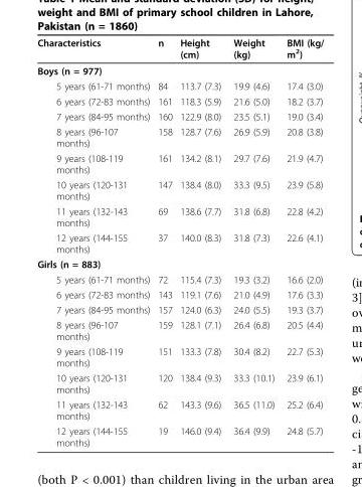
<table><thead><tr><td>Characteristics</td><td>n</td><td>Height (cm)</td><td>Weight (kg)</td><td>BMI (kg/ m<sup>2</sup>)</td></tr></thead><tbody><tr><td colspan="5">Boys (n = 977)</td></tr><tr><td>5 years (61-71 months)</td><td>84</td><td>113.7 (7.3)</td><td>19.9 (4.6)</td><td>17.4 (3.0)</td></tr><tr><td>6 years (72-83 months)</td><td>161</td><td>118.3 (5.9)</td><td>21.6 (5.0)</td><td>18.2 (3.7)</td></tr><tr><td>7 years (84-95 months)</td><td>160</td><td>122.9 (8.0)</td><td>23.5 (5.1)</td><td>19.0 (3.4)</td></tr><tr><td>8 years (96-107 months)</td><td>158</td><td>128.7 (7.6)</td><td>26.9 (5.9)</td><td>20.8 (3.8)</td></tr><tr><td>9 years (108-119 months)</td><td>161</td><td>134.2 (8.1)</td><td>29.7 (7.6)</td><td>21.9 (4.7)</td></tr><tr><td>10 years (120-131 months)</td><td>147</td><td>138.4 (8.0)</td><td>33.3 (9.5)</td><td>23.9 (5.8)</td></tr><tr><td>11 years (132-143 months)</td><td>69</td><td>138.6 (7.7)</td><td>31.8 (6.8)</td><td>22.8 (4.2)</td></tr><tr><td>12 years (144-155 months)</td><td>37</td><td>140.0 (8.3)</td><td>31.8 (7.3)</td><td>22.6 (4.1)</td></tr><tr><td colspan="5">Girls (n = 883)</td></tr><tr><td>5 years (61-71 months)</td><td>72</td><td>115.4 (7.3)</td><td>19.3 (3.2)</td><td>16.6 (2.0)</td></tr><tr><td>6 years (72-83 months)</td><td>143</td><td>119.1 (7.6)</td><td>21.0 (4.9)</td><td>17.6 (3.3)</td></tr><tr><td>7 years (84-95 months)</td><td>157</td><td>124.0 (6.3)</td><td>24.0 (5.5)</td><td>19.3 (3.7)</td></tr><tr><td>8 years (96-107 months)</td><td>159</td><td>128.1 (7.1)</td><td>26.4 (6.8)</td><td>20.5 (4.4)</td></tr><tr><td>9 years (108-119 months)</td><td>151</td><td>133.3 (7.8)</td><td>30.4 (8.2)</td><td>22.7 (5.3)</td></tr><tr><td>10 years (120-131 months)</td><td>120</td><td>138.4 (9.3)</td><td>33.3 (10.1)</td><td>23.9 (6.1)</td></tr><tr><td>11 years (132-143 months)</td><td>62</td><td>143.3 (9.6)</td><td>36.5 (11.0)</td><td>25.2 (6.4)</td></tr><tr><td>12 years (144-155 months)</td><td>19</td><td>146.0 (9.4)</td><td>36.4 (9.9)</td><td>24.8 (5.7)</td></tr></tbody></table>